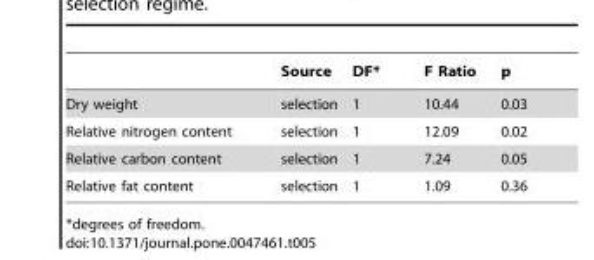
<table><thead><tr><td></td><td>Source</td><td>DF*</td><td>F Ratio</td><td>p</td></tr></thead><tbody><tr><td>Dry weight</td><td>selection</td><td>1</td><td>10.44</td><td>0.03</td></tr><tr><td>Relative nitrogen content</td><td>selection</td><td>1</td><td>12.09</td><td>0.02</td></tr><tr><td>Relative carbon content</td><td>selection</td><td>1</td><td>7.24</td><td>0.05</td></tr><tr><td>Relative fat content</td><td>selection</td><td>1</td><td>1.09</td><td>0.36</td></tr></tbody></table>